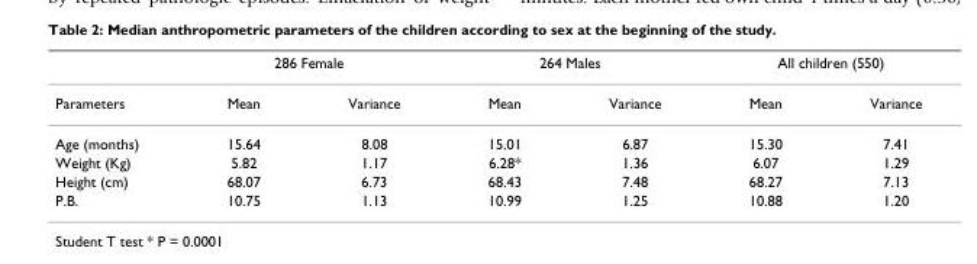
<table><thead><tr><td rowspan="2">Parameters</td><td colspan="2">286 Female</td><td colspan="2">264 Males</td><td colspan="2">All children (550)</td></tr><tr><td>Mean</td><td>Variance</td><td>Mean</td><td>Variance</td><td>Mean</td><td>Variance</td></tr></thead><tbody><tr><td>Age (months)</td><td>15.64</td><td>8.08</td><td>15.01</td><td>6.87</td><td>15.30</td><td>7.41</td></tr><tr><td>Weight (Kg)</td><td>5.82</td><td>1.17</td><td>6.28*</td><td>1.36</td><td>6.07</td><td>1.29</td></tr><tr><td>Height (cm)</td><td>68.07</td><td>6.73</td><td>68.43</td><td>7.48</td><td>68.27</td><td>7.13</td></tr><tr><td>P.B.</td><td>10.75</td><td>1.13</td><td>10.99</td><td>1.25</td><td>10.88</td><td>1.20</td></tr></tbody></table>